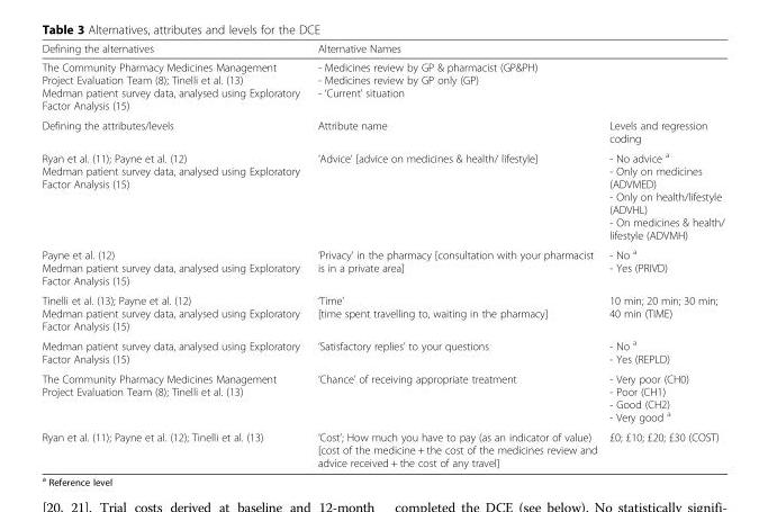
<table><thead><tr><td rowspan="3">Defining the alternatives The Community Pharmacy Medicines Management Project Evaluation Team (8); Tinelli et al. (13) Medman patient survey data, analysed using Exploratory Factor Analysis (15) Defining the attributes/levels</td><td rowspan="2" colspan="2">Alternative Names - Medicines review by GP &amp; pharmacist (GP&amp;PH) - Medicines review by GP only (GP) - ‘Current’ situation</td></tr><tr></tr><tr><td>Attribute name</td><td>Levels and regression coding</td></tr></thead><tbody><tr><td>Ryan et al. (11); Payne et al. (12) Medman patient survey data, analysed using Exploratory Factor Analysis (15)</td><td>‘Advice’ [advice on medicines &amp; health/ lifestyle]</td><td>- No advice <sup>a</sup> - Only on medicines (ADVMED) - Only on health/lifestyle (ADVHL) - On medicines &amp; health/ lifestyle (ADVMH)</td></tr><tr><td>Payne et al. (12) Medman patient survey data, analysed using Exploratory Factor Analysis (15)</td><td>‘Privacy’ in the pharmacy [consultation with your pharmacist is in a private area]</td><td>- No <sup>a</sup> - Yes (PRIVD)</td></tr><tr><td>Tinelli et al. (13); Payne et al. (12) Medman patient survey data, analysed using Exploratory Factor Analysis (15)</td><td>‘Time’ [time spent travelling to, waiting in the pharmacy]</td><td>10 min; 20 min; 30 min; 40 min (TIME)</td></tr><tr><td>Medman patient survey data, analysed using Exploratory Factor Analysis (15)</td><td>‘Satisfactory replies’ to your questions</td><td>- No <sup>a</sup> - Yes (REPLD)</td></tr><tr><td>The Community Pharmacy Medicines Management Project Evaluation Team (8); Tinelli et al. (13)</td><td>‘Chance’ of receiving appropriate treatment</td><td>- Very poor (CH0) - Poor (CH1) - Good (CH2) - Very good <sup>a</sup></td></tr><tr><td>Ryan et al. (11); Payne et al. (12); Tinelli et al. (13)</td><td>‘Cost’; How much you have to pay (as an indicator of value) [cost of the medicine + the cost of the medicines review and advice received + the cost of any travel]</td><td>£0; £10; £20; £30 (COST)</td></tr></tbody></table>